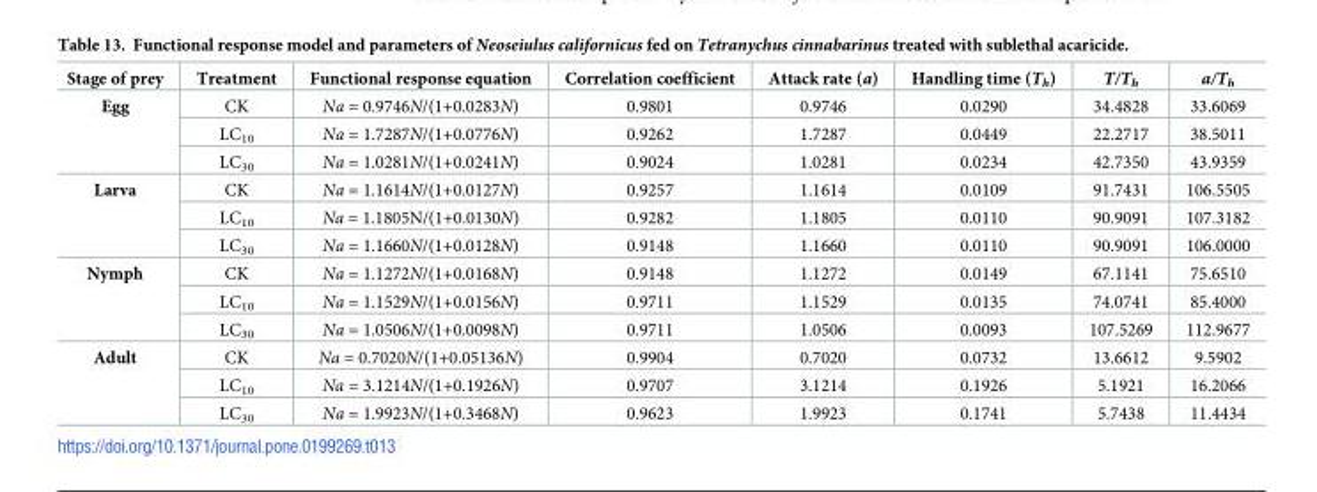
<table><thead><tr><td>Stage of prey</td><td>Treatment</td><td>Functional response equation</td><td>Correlation coefficient</td><td>Attack rate (a)</td><td>Handling time (T<sub>h</sub>)</td><td>T/T<sub>h</sub></td><td>a/T<sub>h</sub></td></tr></thead><tbody><tr><td rowspan="3">Egg</td><td>CK</td><td>Na = 0.9746N/(1+0.0283N)</td><td>0.9801</td><td>0.9746</td><td>0.0290</td><td>34.4828</td><td>33.6069</td></tr><tr><td>LC<sub>10</sub></td><td>Na = 1.7287N/(1+0.0776N)</td><td>0.9262</td><td>1.7287</td><td>0.0449</td><td>22.2717</td><td>38.5011</td></tr><tr><td>LC<sub>30</sub></td><td>Na = 1.0281N/(1+0.0241N)</td><td>0.9024</td><td>1.0281</td><td>0.0234</td><td>42.7350</td><td>43.9359</td></tr><tr><td rowspan="3">Larva</td><td>CK</td><td>Na = 1.1614N/(1+0.0127N)</td><td>0.9257</td><td>1.1614</td><td>0.0109</td><td>91.7431</td><td>106.5505</td></tr><tr><td>LC<sub>10</sub></td><td>Na = 1.1805N/(1+0.0130N)</td><td>0.9282</td><td>1.1805</td><td>0.0110</td><td>90.9091</td><td>107.3182</td></tr><tr><td>LC<sub>30</sub></td><td>Na = 1.1660N/(1+0.0128N)</td><td>0.9148</td><td>1.1660</td><td>0.0110</td><td>90.9091</td><td>106.0000</td></tr><tr><td rowspan="3">Nymph</td><td>CK</td><td>Na = 1.1272N/(1+0.0168N)</td><td>0.9148</td><td>1.1272</td><td>0.0149</td><td>67.1141</td><td>75.6510</td></tr><tr><td>LC<sub>10</sub></td><td>Na = 1.1529N/(1+0.0156N)</td><td>0.9711</td><td>1.1529</td><td>0.0135</td><td>74.0741</td><td>85.4000</td></tr><tr><td>LC<sub>30</sub></td><td>Na = 1.0506N/(1+0.0098N)</td><td>0.9711</td><td>1.0506</td><td>0.0093</td><td>107.5269</td><td>112.9677</td></tr><tr><td rowspan="3">Adult</td><td>CK</td><td>Na = 0.7020N/(1+0.05136N)</td><td>0.9904</td><td>0.7020</td><td>0.0732</td><td>13.6612</td><td>9.5902</td></tr><tr><td>LC<sub>10</sub></td><td>Na = 3.1214N/(1+0.1926N)</td><td>0.9707</td><td>3.1214</td><td>0.1926</td><td>5.1921</td><td>16.2066</td></tr><tr><td>LC<sub>30</sub></td><td>Na = 1.9923N/(1+0.3468N)</td><td>0.9623</td><td>1.9923</td><td>0.1741</td><td>5.7438</td><td>11.4434</td></tr></tbody></table>